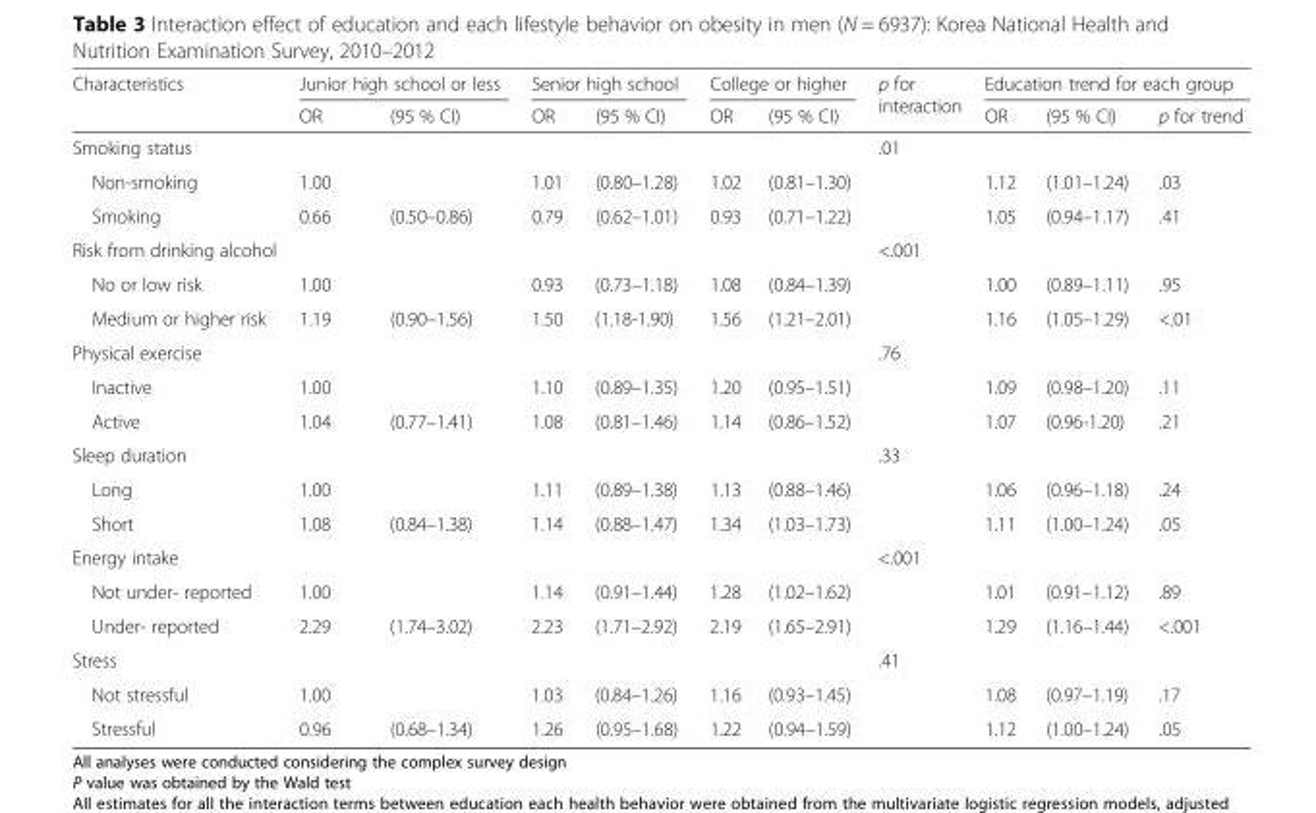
<table><thead><tr><td rowspan="2">Characteristics</td><td colspan="2">Junior high school or less</td><td colspan="2">Senior high school</td><td colspan="2">College or higher</td><td rowspan="2">p for interaction</td><td colspan="3">Education trend for each group</td></tr><tr><td>OR</td><td>(95 % CI)</td><td>OR</td><td>(95 % CI)</td><td>OR</td><td>(95 % CI)</td><td>OR</td><td>(95 % CI)</td><td>p for trend</td></tr></thead><tbody><tr><td>Smoking status</td><td></td><td></td><td></td><td></td><td></td><td></td><td>.01</td><td></td><td></td><td></td></tr><tr><td>Non-smoking</td><td>1.00</td><td></td><td>1.01</td><td>(0.80–1.28)</td><td>1.02</td><td>(0.81–1.30)</td><td></td><td>1.12</td><td>(1.01–1.24)</td><td>.03</td></tr><tr><td>Smoking</td><td>0.66</td><td>(0.50–0.86)</td><td>0.79</td><td>(0.62–1.01)</td><td>0.93</td><td>(0.71–1.22)</td><td></td><td>1.05</td><td>(0.94–1.17)</td><td>.41</td></tr><tr><td>Risk from drinking alcohol</td><td></td><td></td><td></td><td></td><td></td><td></td><td>&lt;.001</td><td></td><td></td><td></td></tr><tr><td>No or low risk</td><td>1.00</td><td></td><td>0.93</td><td>(0.73–1.18)</td><td>1.08</td><td>(0.84–1.39)</td><td></td><td>1.00</td><td>(0.89–1.11)</td><td>.95</td></tr><tr><td>Medium or higher risk</td><td>1.19</td><td>(0.90–1.56)</td><td>1.50</td><td>(1.18-1.90)</td><td>1.56</td><td>(1.21–2.01)</td><td></td><td>1.16</td><td>(1.05–1.29)</td><td>&lt;.01</td></tr><tr><td>Physical exercise</td><td></td><td></td><td></td><td></td><td></td><td></td><td>.76</td><td></td><td></td><td></td></tr><tr><td>Inactive</td><td>1.00</td><td></td><td>1.10</td><td>(0.89–1.35)</td><td>1.20</td><td>(0.95–1.51)</td><td></td><td>1.09</td><td>(0.98–1.20)</td><td>.11</td></tr><tr><td>Active</td><td>1.04</td><td>(0.77–1.41)</td><td>1.08</td><td>(0.81–1.46)</td><td>1.14</td><td>(0.86–1.52)</td><td></td><td>1.07</td><td>(0.96-1.20)</td><td>.21</td></tr><tr><td>Sleep duration</td><td></td><td></td><td></td><td></td><td></td><td></td><td>.33</td><td></td><td></td><td></td></tr><tr><td>Long</td><td>1.00</td><td></td><td>1.11</td><td>(0.89–1.38)</td><td>1.13</td><td>(0.88–1.46)</td><td></td><td>1.06</td><td>(0.96–1.18)</td><td>.24</td></tr><tr><td>Short</td><td>1.08</td><td>(0.84–1.38)</td><td>1.14</td><td>(0.88–1.47)</td><td>1.34</td><td>(1.03–1.73)</td><td></td><td>1.11</td><td>(1.00–1.24)</td><td>.05</td></tr><tr><td>Energy intake</td><td></td><td></td><td></td><td></td><td></td><td></td><td>&lt;.001</td><td></td><td></td><td></td></tr><tr><td>Not under- reported</td><td>1.00</td><td></td><td>1.14</td><td>(0.91–1.44)</td><td>1.28</td><td>(1.02–1.62)</td><td></td><td>1.01</td><td>(0.91–1.12)</td><td>.89</td></tr><tr><td>Under- reported</td><td>2.29</td><td>(1.74–3.02)</td><td>2.23</td><td>(1.71–2.92)</td><td>2.19</td><td>(1.65–2.91)</td><td></td><td>1.29</td><td>(1.16–1.44)</td><td>&lt;.001</td></tr><tr><td>Stress</td><td></td><td></td><td></td><td></td><td></td><td></td><td>.41</td><td></td><td></td><td></td></tr><tr><td>Not stressful</td><td>1.00</td><td></td><td>1.03</td><td>(0.84–1.26)</td><td>1.16</td><td>(0.93–1.45)</td><td></td><td>1.08</td><td>(0.97–1.19)</td><td>.17</td></tr><tr><td>Stressful</td><td>0.96</td><td>(0.68–1.34)</td><td>1.26</td><td>(0.95–1.68)</td><td>1.22</td><td>(0.94–1.59)</td><td></td><td>1.12</td><td>(1.00–1.24)</td><td>.05</td></tr></tbody></table>